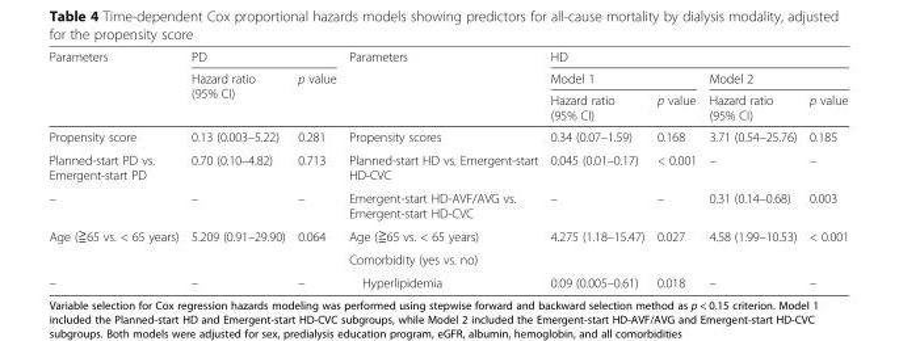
<table><thead><tr><td rowspan="3">Parameters</td><td colspan="2">PD</td><td rowspan="3">Parameters</td><td colspan="4">HD</td></tr><tr><td rowspan="2">Hazard ratio (95% CI)</td><td rowspan="2">p value</td><td colspan="2">Model 1</td><td colspan="2">Model 2</td></tr><tr><td>Hazard ratio (95% CI)</td><td>p value</td><td>Hazard ratio (95% CI)</td><td>p value</td></tr></thead><tbody><tr><td>Propensity score</td><td>0.13 (0.003–5.22)</td><td>0.281</td><td>Propensity scores</td><td>0.34 (0.07–1.59)</td><td>0.168</td><td>3.71 (0.54–25.76)</td><td>0.185</td></tr><tr><td>Planned-start PD vs. Emergent-start PD</td><td>0.70 (0.10–4.82)</td><td>0.713</td><td>Planned-start HD vs. Emergent-start HD-CVC</td><td>0.045 (0.01–0.17)</td><td>&lt; 0.001</td><td>–</td><td>–</td></tr><tr><td>–</td><td>–</td><td>–</td><td>Emergent-start HD-AVF/AVG vs. Emergent-start HD-CVC</td><td>–</td><td>–</td><td>0.31 (0.14–0.68)</td><td>0.003</td></tr><tr><td rowspan="2">Age (≧65 vs. &lt; 65 years)</td><td>5.209 (0.91–29.90)</td><td>0.064</td><td>Age (≧65 vs. &lt; 65 years)</td><td>4.275 (1.18–15.47)</td><td>0.027</td><td>4.58 (1.99–10.53)</td><td>&lt; 0.001</td></tr><tr><td></td><td></td><td colspan="5">Comorbidity (yes vs. no)</td></tr><tr><td>–</td><td>–</td><td>–</td><td>Hyperlipidemia</td><td>0.09 (0.005–0.61)</td><td>0.018</td><td>–</td><td>–</td></tr></tbody></table>